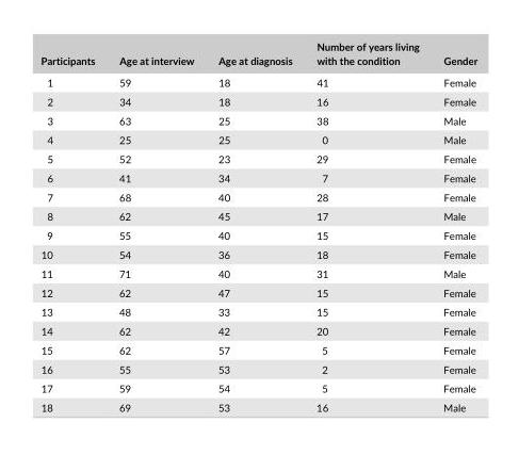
<table><thead><tr><td>Participants</td><td>Age at interview</td><td>Age at diagnosis</td><td>Number of years living with the condition</td><td>Gender</td></tr></thead><tbody><tr><td>1</td><td>59</td><td>18</td><td>41</td><td>Female</td></tr><tr><td>2</td><td>34</td><td>18</td><td>16</td><td>Female</td></tr><tr><td>3</td><td>63</td><td>25</td><td>38</td><td>Male</td></tr><tr><td>4</td><td>25</td><td>25</td><td>0</td><td>Male</td></tr><tr><td>5</td><td>52</td><td>23</td><td>29</td><td>Female</td></tr><tr><td>6</td><td>41</td><td>34</td><td>7</td><td>Female</td></tr><tr><td>7</td><td>68</td><td>40</td><td>28</td><td>Female</td></tr><tr><td>8</td><td>62</td><td>45</td><td>17</td><td>Male</td></tr><tr><td>9</td><td>55</td><td>40</td><td>15</td><td>Female</td></tr><tr><td>10</td><td>54</td><td>36</td><td>18</td><td>Female</td></tr><tr><td>11</td><td>71</td><td>40</td><td>31</td><td>Male</td></tr><tr><td>12</td><td>62</td><td>47</td><td>15</td><td>Female</td></tr><tr><td>13</td><td>48</td><td>33</td><td>15</td><td>Female</td></tr><tr><td>14</td><td>62</td><td>42</td><td>20</td><td>Female</td></tr><tr><td>15</td><td>62</td><td>57</td><td>5</td><td>Female</td></tr><tr><td>16</td><td>55</td><td>53</td><td>2</td><td>Female</td></tr><tr><td>17</td><td>59</td><td>54</td><td>5</td><td>Female</td></tr><tr><td>18</td><td>69</td><td>53</td><td>16</td><td>Male</td></tr></tbody></table>